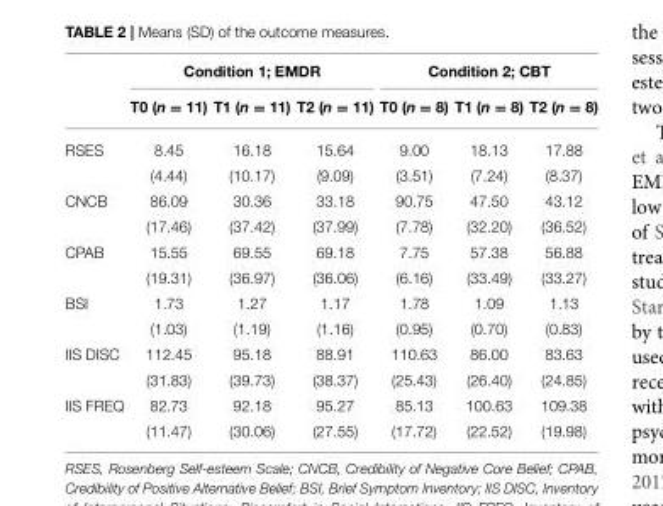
<table><thead><tr><td rowspan="2"></td><td colspan="3">Condition 1; EMDR</td><td colspan="3">Condition 2; CBT</td></tr><tr><td>T0 (n = 11)</td><td>T1 (n = 11)</td><td>T2 (n = 11)</td><td>T0 (n = 8)</td><td>T1 (n = 8)</td><td>T2 (n = 8)</td></tr></thead><tbody><tr><td rowspan="2">RSES</td><td>8.45</td><td>16.18</td><td>15.64</td><td>9.00</td><td>18.13</td><td>17.88</td></tr><tr><td>(4.44)</td><td>(10.17)</td><td>(9.09)</td><td>(3.51)</td><td>(7.24)</td><td>(8.37)</td></tr><tr><td rowspan="2">CNCB</td><td>86.09</td><td>30.36</td><td>33.18</td><td>90.75</td><td>47.50</td><td>43.12</td></tr><tr><td>(17.46)</td><td>(37.42)</td><td>(37.99)</td><td>(7.78)</td><td>(32.20)</td><td>(36.52)</td></tr><tr><td rowspan="2">CPAB</td><td>15.55</td><td>69.55</td><td>69.18</td><td>7.75</td><td>57.38</td><td>56.88</td></tr><tr><td>(19.31)</td><td>(36.97)</td><td>(36.06)</td><td>(6.16)</td><td>(33.49)</td><td>(33.27)</td></tr><tr><td rowspan="2">BSI</td><td>1.73</td><td>1.27</td><td>1.17</td><td>1.78</td><td>1.09</td><td>1.13</td></tr><tr><td>(1.03)</td><td>(1.19)</td><td>(1.16)</td><td>(0.95)</td><td>(0.70)</td><td>(0.83)</td></tr><tr><td rowspan="2">IIS DISC</td><td>112.45</td><td>95.18</td><td>88.91</td><td>110.63</td><td>86.00</td><td>83.63</td></tr><tr><td>(31.83)</td><td>(39.73)</td><td>(38.37)</td><td>(25.43)</td><td>(26.40)</td><td>(24.85)</td></tr><tr><td rowspan="2">IIS FREQ</td><td>82.73</td><td>92.18</td><td>95.27</td><td>85.13</td><td>100.63</td><td>109.38</td></tr><tr><td>(11.47)</td><td>(30.06)</td><td>(27.55)</td><td>(17.72)</td><td>(22.52)</td><td>(19.98)</td></tr></tbody></table>